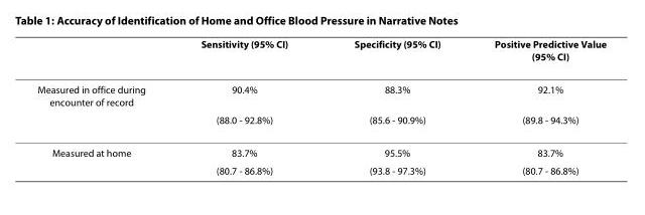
<table><thead><tr><td></td><td>Sensitivity (95% CI)</td><td>Specificity (95% CI)</td><td>Positive Predictive Value (95% CI)</td></tr></thead><tbody><tr><td rowspan="2">Measured in office during encounter of record</td><td>90.4%</td><td>88.3%</td><td>92.1%</td></tr><tr><td>(88.0 - 92.8%)</td><td>(85.6 - 90.9%)</td><td>(89.8 - 94.3%)</td></tr><tr><td rowspan="2">Measured at home</td><td>83.7%</td><td>95.5%</td><td>83.7%</td></tr><tr><td>(80.7 - 86.8%)</td><td>(93.8 - 97.3%)</td><td>(80.7 - 86.8%)</td></tr></tbody></table>